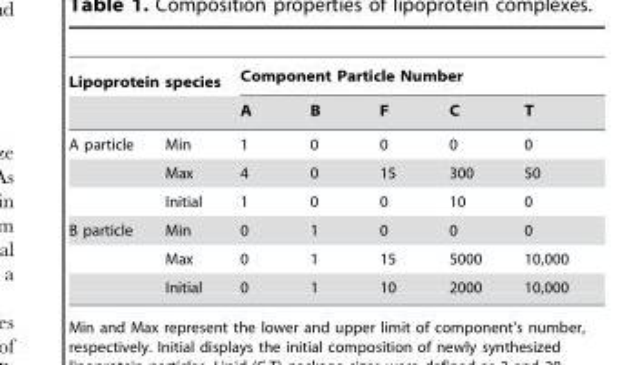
<table><thead><tr><td colspan="2">Lipoprotein species</td><td colspan="5">Component Particle Number</td></tr><tr><td></td><td></td><td>A</td><td>B</td><td>F</td><td>C</td><td>T</td></tr></thead><tbody><tr><td rowspan="3">A particle</td><td>Min</td><td>1</td><td>0</td><td>0</td><td>0</td><td>0</td></tr><tr><td>Max</td><td>4</td><td>0</td><td>15</td><td>300</td><td>50</td></tr><tr><td>Initial</td><td>1</td><td>0</td><td>0</td><td>10</td><td>0</td></tr><tr><td rowspan="3">B particle</td><td>Min</td><td>0</td><td>1</td><td>0</td><td>0</td><td>0</td></tr><tr><td>Max</td><td>0</td><td>1</td><td>15</td><td>5000</td><td>10,000</td></tr><tr><td>Initial</td><td>0</td><td>1</td><td>10</td><td>2000</td><td>10,000</td></tr></tbody></table>